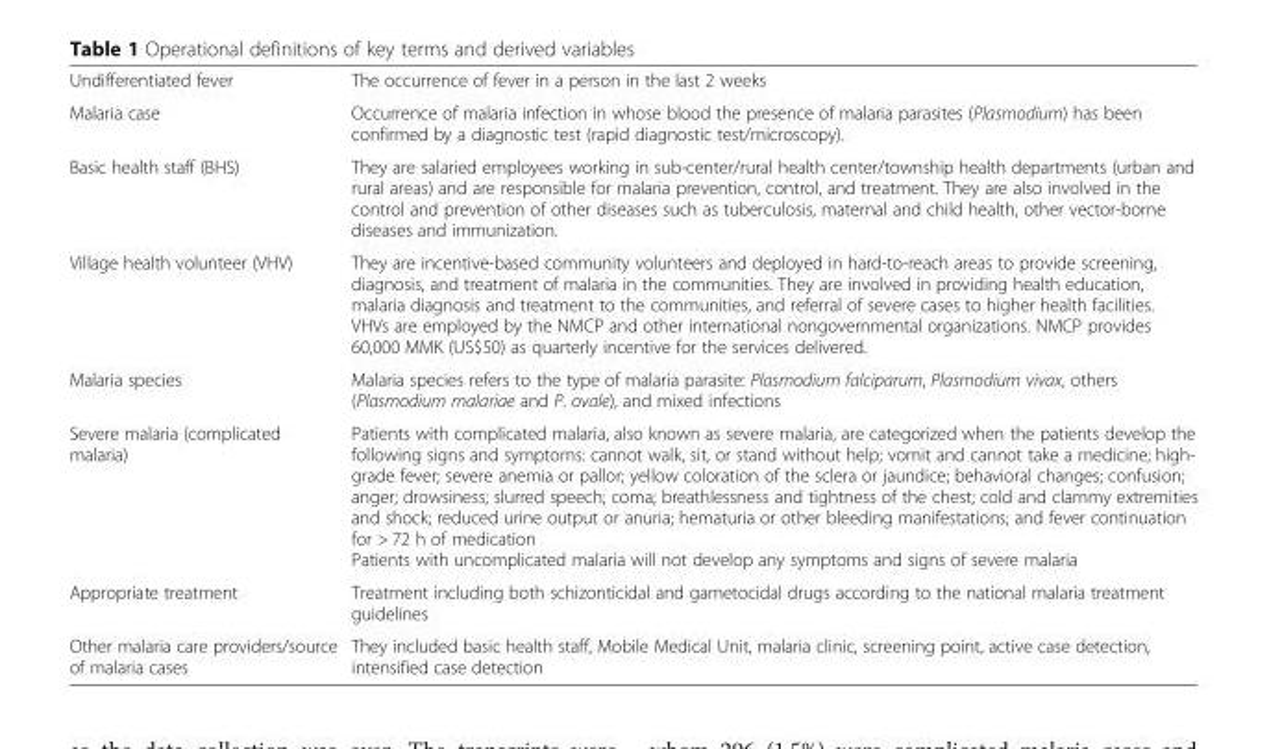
<table><tbody><tr><td>Undifferentiated fever</td><td>The occurrence of fever in a person in the last 2 weeks</td></tr><tr><td>Malaria case</td><td>Occurrence of malaria infection in whose blood the presence of malaria parasites (Plasmodium) has been confirmed by a diagnostic test (rapid diagnostic test/microscopy).</td></tr><tr><td>Basic health staff (BHS)</td><td>They are salaried employees working in sub-center/rural health center/township health departments (urban and rural areas) and are responsible for malaria prevention, control, and treatment. They are also involved in the control and prevention of other diseases such as tuberculosis, maternal and child health, other vector-borne diseases and immunization.</td></tr><tr><td>Village health volunteer (VHV)</td><td>They are incentive-based community volunteers and deployed in hard-to-reach areas to provide screening, diagnosis, and treatment of malaria in the communities. They are involved in providing health education, malaria diagnosis and treatment to the communities, and referral of severe cases to higher health facilities. VHVs are employed by the NMCP and other international nongovernmental organizations. NMCP provides 60,000 MMK (US$50) as quarterly incentive for the services delivered.</td></tr><tr><td>Malaria species</td><td>Malaria species refers to the type of malaria parasite: Plasmodium falciparum, Plasmodium vivax, others (Plasmodium malariae and P. ovale), and mixed infections</td></tr><tr><td>Severe malaria (complicated malaria)</td><td>Patients with complicated malaria, also known as severe malaria, are categorized when the patients develop the following signs and symptoms: cannot walk, sit, or stand without help; vomit and cannot take a medicine; high- grade fever; severe anemia or pallor; yellow coloration of the sclera or jaundice; behavioral changes; confusion; anger; drowsiness; slurred speech; coma; breathlessness and tightness of the chest; cold and clammy extremities and shock; reduced urine output or anuria; hematuria or other bleeding manifestations; and fever continuation for &gt; 72 h of medication Patients with uncomplicated malaria will not develop any symptoms and signs of severe malaria</td></tr><tr><td>Appropriate treatment</td><td>Treatment including both schizonticidal and gametocidal drugs according to the national malaria treatment guidelines</td></tr><tr><td>Other malaria care providers/source of malaria cases</td><td>They included basic health staff, Mobile Medical Unit, malaria clinic, screening point, active case detection, intensified case detection</td></tr></tbody></table>